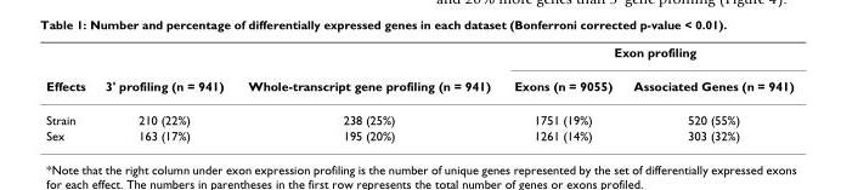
<table><thead><tr><td rowspan="2">Effects</td><td rowspan="2">3&#x27; profiling (n = 941)</td><td rowspan="2">Whole-transcript gene profiling (n = 941)</td><td colspan="2">Exon profiling</td></tr><tr><td>Exons (n = 9055)</td><td>Associated Genes (n = 941)</td></tr></thead><tbody><tr><td>Strain</td><td>210 (22%)</td><td>238 (25%)</td><td>1751 (19%)</td><td>520 (55%)</td></tr><tr><td>Sex</td><td>163 (17%)</td><td>195 (20%)</td><td>1261 (14%)</td><td>303 (32%)</td></tr></tbody></table>